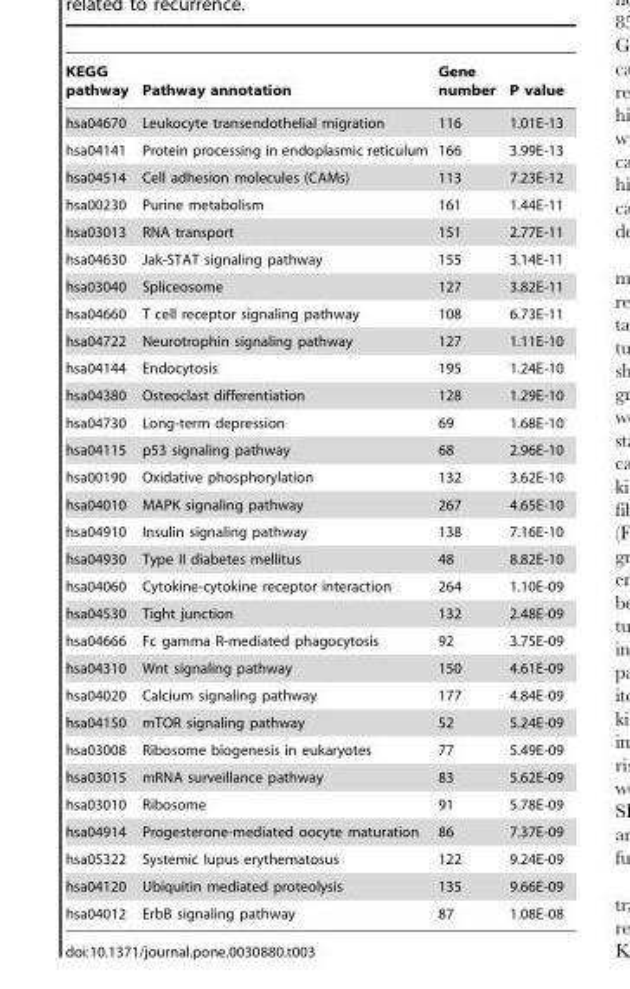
<table><thead><tr><td>KEGG pathway</td><td>Pathway annotation</td><td>Gene number</td><td>P value</td></tr></thead><tbody><tr><td>hsa04670</td><td>Leukocyte transendothelial migration</td><td>116</td><td>1.01E-13</td></tr><tr><td>hsa04141</td><td>Protein processing in endoplasmic reticulum</td><td>166</td><td>3.99E-13</td></tr><tr><td>hsa04514</td><td>Cell adhesion molecules (CAMs)</td><td>113</td><td>7.23E-12</td></tr><tr><td>hsa00230</td><td>Purine metabolism</td><td>161</td><td>1.44E-11</td></tr><tr><td>hsa03013</td><td>RNA transport</td><td>151</td><td>2.77E-11</td></tr><tr><td>hsa04630</td><td>Jak-STAT signaling pathway</td><td>155</td><td>3.14E-11</td></tr><tr><td>hsa03040</td><td>Spliceosome</td><td>127</td><td>3.82E-11</td></tr><tr><td>hsa04660</td><td>T cell receptor signaling pathway</td><td>108</td><td>6.73E-11</td></tr><tr><td>hsa04722</td><td>Neurotrophin signaling pathway</td><td>127</td><td>1.11E-10</td></tr><tr><td>hsa04144</td><td>Endocytosis</td><td>195</td><td>1.24E-10</td></tr><tr><td>hsa04380</td><td>Osteoclast differentiation</td><td>128</td><td>1.29E-10</td></tr><tr><td>hsa04730</td><td>Long-term depression</td><td>69</td><td>1.68E-10</td></tr><tr><td>hsa04115</td><td>p53 signaling pathway</td><td>68</td><td>2.96E-10</td></tr><tr><td>hsa00190</td><td>Oxidative phosphorylation</td><td>132</td><td>3.62E-10</td></tr><tr><td>hsa04010</td><td>MAPK signaling pathway</td><td>267</td><td>4.65E-10</td></tr><tr><td>hsa04910</td><td>Insulin signaling pathway</td><td>138</td><td>7.16E-10</td></tr><tr><td>hsa04930</td><td>Type II diabetes mellitus</td><td>48</td><td>8.82E-10</td></tr><tr><td>hsa04060</td><td>Cytokine-cytokine receptor interaction</td><td>264</td><td>1.10E-09</td></tr><tr><td>hsa04530</td><td>Tight junction</td><td>132</td><td>2.48E-09</td></tr><tr><td>hsa04666</td><td>Fc gamma R-mediated phagocytosis</td><td>92</td><td>3.75E-09</td></tr><tr><td>hsa04310</td><td>Wnt signaling pathway</td><td>150</td><td>4.61E-09</td></tr><tr><td>hsa04020</td><td>Calcium signaling pathway</td><td>177</td><td>4.84E-09</td></tr><tr><td>hsa04150</td><td>mTOR signaling pathway</td><td>52</td><td>5.24E-09</td></tr><tr><td>hsa03008</td><td>Ribosome biogenesis in eukaryotes</td><td>77</td><td>5.49E-09</td></tr><tr><td>hsa03015</td><td>mRNA surveillance pathway</td><td>83</td><td>5.62E-09</td></tr><tr><td>hsa03010</td><td>Ribosome</td><td>91</td><td>5.78E-09</td></tr><tr><td>hsa04914</td><td>Progesterone-mediated oocyte maturation</td><td>86</td><td>7.37E-09</td></tr><tr><td>hsa05322</td><td>Systemic lupus erythematosus</td><td>122</td><td>9.24E-09</td></tr><tr><td>hsa04120</td><td>Ubiquitin mediated proteolysis</td><td>135</td><td>9.66E-09</td></tr><tr><td>hsa04012</td><td>ErbB signaling pathway</td><td>87</td><td>1.08E-08</td></tr></tbody></table>